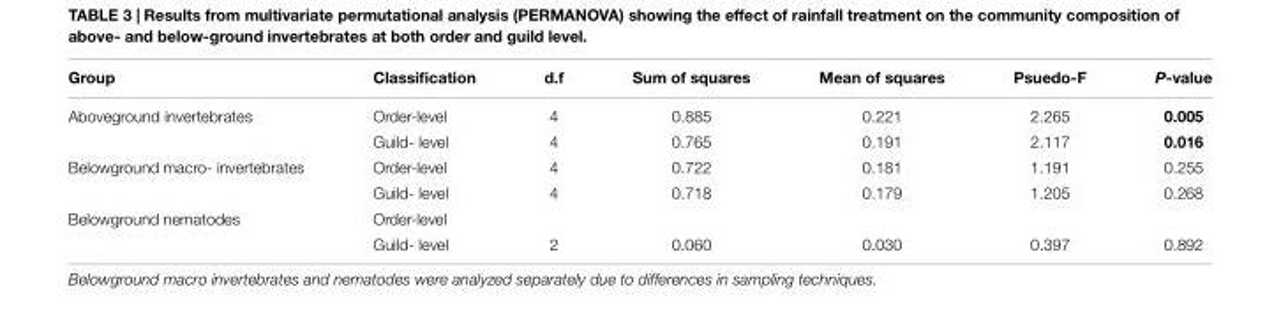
<table><thead><tr><td>Group</td><td>Classification</td><td>d.f</td><td>Sum of squares</td><td>Mean of squares</td><td>Psuedo-F</td><td>P-value</td></tr></thead><tbody><tr><td rowspan="2">Aboveground invertebrates</td><td>Order-level</td><td>4</td><td>0.885</td><td>0.221</td><td>2.265</td><td>0.005</td></tr><tr><td>Guild- level</td><td>4</td><td>0.765</td><td>0.191</td><td>2.117</td><td>0.016</td></tr><tr><td rowspan="2">Belowground macro- invertebrates</td><td>Order-level</td><td>4</td><td>0.722</td><td>0.181</td><td>1.191</td><td>0.255</td></tr><tr><td>Guild- level</td><td>4</td><td>0.718</td><td>0.179</td><td>1.205</td><td>0.268</td></tr><tr><td rowspan="2">Belowground nematodes</td><td>Order-level</td><td></td><td></td><td></td><td></td><td></td></tr><tr><td>Guild- level</td><td>2</td><td>0.060</td><td>0.030</td><td>0.397</td><td>0.892</td></tr></tbody></table>